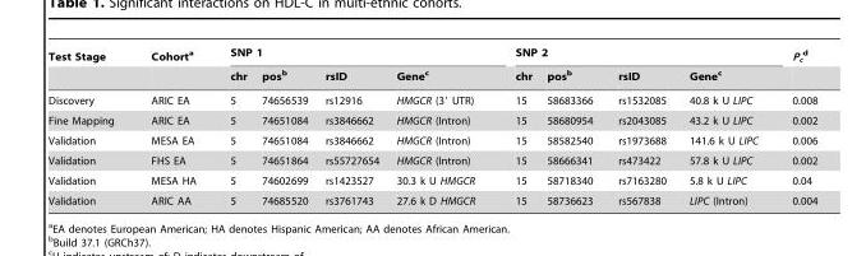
<table><thead><tr><td rowspan="2">Test Stage</td><td rowspan="2">Cohort<sup>a</sup></td><td colspan="4">SNP 1</td><td colspan="4">SNP 2</td><td rowspan="2">P<sub>c</sub> d</td></tr><tr><td>chr</td><td>pos<sup>b</sup></td><td>rsID</td><td>Gene<sup>c</sup></td><td>chr</td><td>pos<sup>b</sup></td><td>rsID</td><td>Gene<sup>c</sup></td></tr></thead><tbody><tr><td>Discovery</td><td>ARIC EA</td><td>5</td><td>74656539</td><td>rs12916</td><td>HMGCR (3′ UTR)</td><td>15</td><td>58683366</td><td>rs1532085</td><td>40.8 k U LIPC</td><td>0.008</td></tr><tr><td>Fine Mapping</td><td>ARIC EA</td><td>5</td><td>74651084</td><td>rs3846662</td><td>HMGCR (Intron)</td><td>15</td><td>58680954</td><td>rs2043085</td><td>43.2 k U LIPC</td><td>0.002</td></tr><tr><td>Validation</td><td>MESA EA</td><td>5</td><td>74651084</td><td>rs3846662</td><td>HMGCR (Intron)</td><td>15</td><td>58582540</td><td>rs1973688</td><td>141.6 k U LIPC</td><td>0.006</td></tr><tr><td>Validation</td><td>FHS EA</td><td>5</td><td>74651864</td><td>rs55727654</td><td>HMGCR (Intron)</td><td>15</td><td>58666341</td><td>rs473422</td><td>57.8 k U LIPC</td><td>0.002</td></tr><tr><td>Validation</td><td>MESA HA</td><td>5</td><td>74602699</td><td>rs1423527</td><td>30.3 k U HMGCR</td><td>15</td><td>58718340</td><td>rs7163280</td><td>5.8 k U LIPC</td><td>0.04</td></tr><tr><td>Validation</td><td>ARIC AA</td><td>5</td><td>74685520</td><td>rs3761743</td><td>27.6 k D HMGCR</td><td>15</td><td>58736623</td><td>rs567838</td><td>LIPC (Intron)</td><td>0.004</td></tr></tbody></table>